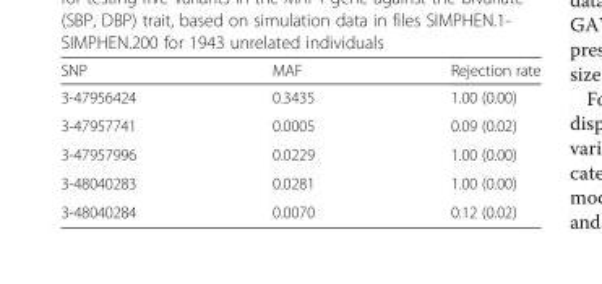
<table><thead><tr><td>SNP</td><td>MAF</td><td>Rejection rate</td></tr></thead><tbody><tr><td>3-47956424</td><td>0.3435</td><td>1.00 (0.00)</td></tr><tr><td>3-47957741</td><td>0.0005</td><td>0.09 (0.02)</td></tr><tr><td>3-47957996</td><td>0.0229</td><td>1.00 (0.00)</td></tr><tr><td>3-48040283</td><td>0.0281</td><td>1.00 (0.00)</td></tr><tr><td>3-48040284</td><td>0.0070</td><td>0.12 (0.02)</td></tr></tbody></table>